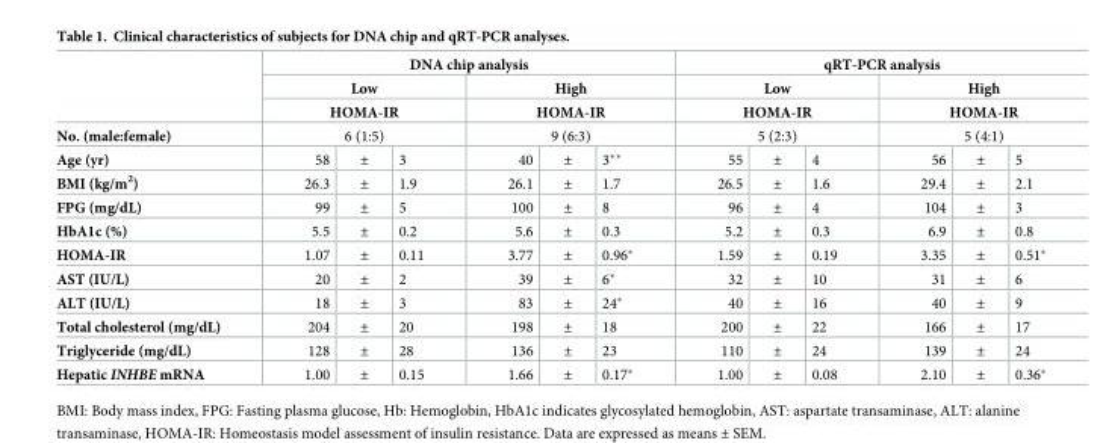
<table><thead><tr><td rowspan="5">No. (male:female) Age (yr)</td><td colspan="6">DNA chip analysis</td><td colspan="6">qRT-PCR analysis</td></tr><tr><td rowspan="3" colspan="3">Low HOMA-IR 6 (1:5)</td><td rowspan="3" colspan="3">High HOMA-IR 9 (6:3)</td><td rowspan="3" colspan="3">Low HOMA-IR 5 (2:3)</td><td rowspan="3" colspan="3">High HOMA-IR 5 (4:1)</td></tr><tr></tr><tr></tr><tr><td>58</td><td>±</td><td>3</td><td>40</td><td>±</td><td>3**</td><td>55</td><td>±</td><td>4</td><td>56</td><td>±</td><td>5</td></tr></thead><tbody><tr><td>BMI (kg/m<sup>2</sup>)</td><td>26.3</td><td>±</td><td>1.9</td><td>26.1</td><td>±</td><td>1.7</td><td>26.5</td><td>±</td><td>1.6</td><td>29.4</td><td>±</td><td>2.1</td></tr><tr><td>FPG (mg/dL)</td><td>99</td><td>±</td><td>5</td><td>100</td><td>±</td><td>8</td><td>96</td><td>±</td><td>4</td><td>104</td><td>±</td><td>3</td></tr><tr><td>HbA1c (%)</td><td>5.5</td><td>±</td><td>0.2</td><td>5.6</td><td>±</td><td>0.3</td><td>5.2</td><td>±</td><td>0.3</td><td>6.9</td><td>±</td><td>0.8</td></tr><tr><td>HOMA-IR</td><td>1.07</td><td>±</td><td>0.11</td><td>3.77</td><td>±</td><td>0.96*</td><td>1.59</td><td>±</td><td>0.19</td><td>3.35</td><td>±</td><td>0.51*</td></tr><tr><td>AST (IU/L)</td><td>20</td><td>±</td><td>2</td><td>39</td><td>±</td><td>6*</td><td>32</td><td>±</td><td>10</td><td>31</td><td>±</td><td>6</td></tr><tr><td>ALT (IU/L)</td><td>18</td><td>±</td><td>3</td><td>83</td><td>±</td><td>24*</td><td>40</td><td>±</td><td>16</td><td>40</td><td>±</td><td>9</td></tr><tr><td>Total cholesterol (mg/dL)</td><td>204</td><td>±</td><td>20</td><td>198</td><td>±</td><td>18</td><td>200</td><td>±</td><td>22</td><td>166</td><td>±</td><td>17</td></tr><tr><td>Triglyceride (mg/dL)</td><td>128</td><td>±</td><td>28</td><td>136</td><td>±</td><td>23</td><td>110</td><td>±</td><td>24</td><td>139</td><td>±</td><td>24</td></tr><tr><td>Hepatic INHBE mRNA</td><td>1.00</td><td>±</td><td>0.15</td><td>1.66</td><td>±</td><td>0.17*</td><td>1.00</td><td>±</td><td>0.08</td><td>2.10</td><td>±</td><td>0.36*</td></tr></tbody></table>